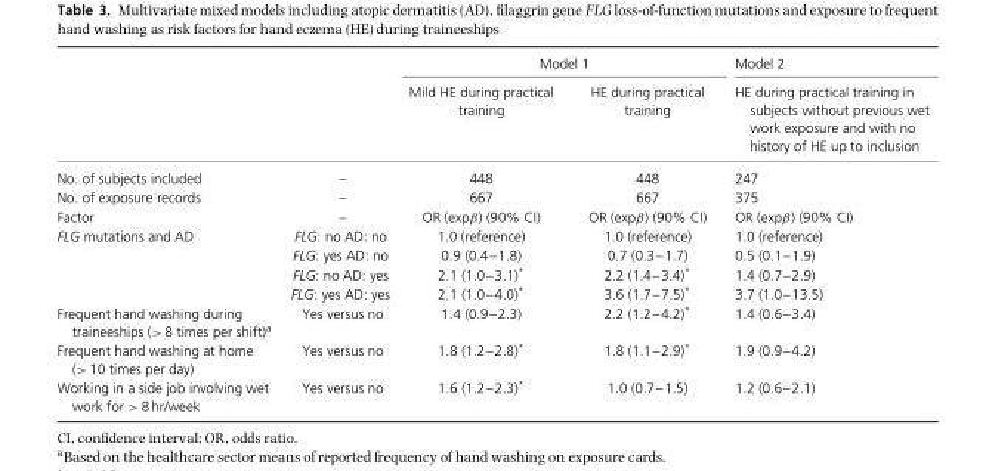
<table><thead><tr><td rowspan="2"></td><td rowspan="2"></td><td colspan="2">Model 1</td><td rowspan="2">Model 2 HE during practical training in subjects without previous wet work exposure and with no history of HE up to inclusion</td></tr><tr><td>Mild HE during practical training</td><td>HE during practical training</td></tr></thead><tbody><tr><td>No. of subjects included</td><td>–</td><td>448</td><td>448</td><td>247</td></tr><tr><td>No. of exposure records</td><td>–</td><td>667</td><td>667</td><td>375</td></tr><tr><td>Factor</td><td>–</td><td>OR (expβ) (90% CI)</td><td>OR (expβ) (90% CI)</td><td>OR (expβ) (90% CI)</td></tr><tr><td rowspan="4">FLG mutations and AD</td><td>FLG: no AD: no</td><td>1.0 (reference)</td><td>1.0 (reference)</td><td>1.0 (reference)</td></tr><tr><td>FLG: yes AD: no</td><td>0.9 (0.4–1.8)</td><td>0.7 (0.3–1.7)</td><td>0.5 (0.1–1.9)</td></tr><tr><td>FLG: no AD: yes</td><td>2.1 (1.0–3.1)*</td><td>2.2 (1.4–3.4)*</td><td>1.4 (0.7–2.9)</td></tr><tr><td>FLG: yes AD: yes</td><td>2.1 (1.0–4.0)*</td><td>3.6 (1.7–7.5)*</td><td>3.7 (1.0–13.5)</td></tr><tr><td>Frequent hand washing during traineeships (&gt; 8 times per shift)<sup>a</sup></td><td>Yes versus no</td><td>1.4 (0.9–2.3)</td><td>2.2 (1.2–4.2)*</td><td>1.4 (0.6–3.4)</td></tr><tr><td>Frequent hand washing at home (&gt; 10 times per day)</td><td>Yes versus no</td><td>1.8 (1.2–2.8)*</td><td>1.8 (1.1–2.9)*</td><td>1.9 (0.9–4.2)</td></tr><tr><td>Working in a side job involving wet work for &gt; 8 hr/week</td><td>Yes versus no</td><td>1.6 (1.2–2.3)*</td><td>1.0 (0.7–1.5)</td><td>1.2 (0.6–2.1)</td></tr></tbody></table>